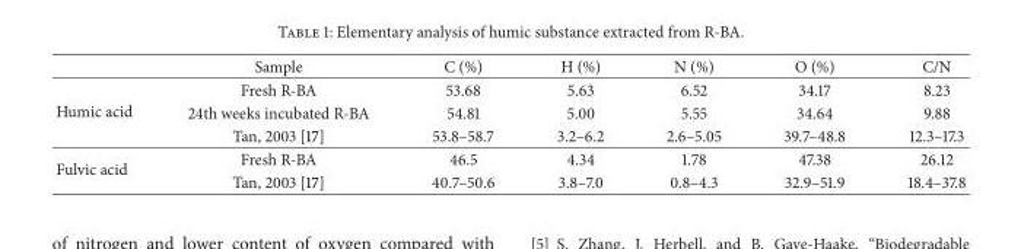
<table><thead><tr><td></td><td>Sample</td><td>C (%)</td><td>H (%)</td><td>N (%)</td><td>O (%)</td><td>C/N</td></tr></thead><tbody><tr><td rowspan="3">Humic acid</td><td>Fresh R-BA</td><td>53.68</td><td>5.63</td><td>6.52</td><td>34.17</td><td>8.23</td></tr><tr><td>24th weeks incubated R-BA</td><td>54.81</td><td>5.00</td><td>5.55</td><td>34.64</td><td>9.88</td></tr><tr><td>Tan, 2003 [17]</td><td>53.8–58.7</td><td>3.2–6.2</td><td>2.6–5.05</td><td>39.7–48.8</td><td>12.3–17.3</td></tr><tr><td rowspan="2">Fulvic acid</td><td>Fresh R-BA</td><td>46.5</td><td>4.34</td><td>1.78</td><td>47.38</td><td>26.12</td></tr><tr><td>Tan, 2003 [17]</td><td>40.7–50.6</td><td>3.8–7.0</td><td>0.8–4.3</td><td>32.9–51.9</td><td>18.4–37.8</td></tr></tbody></table>